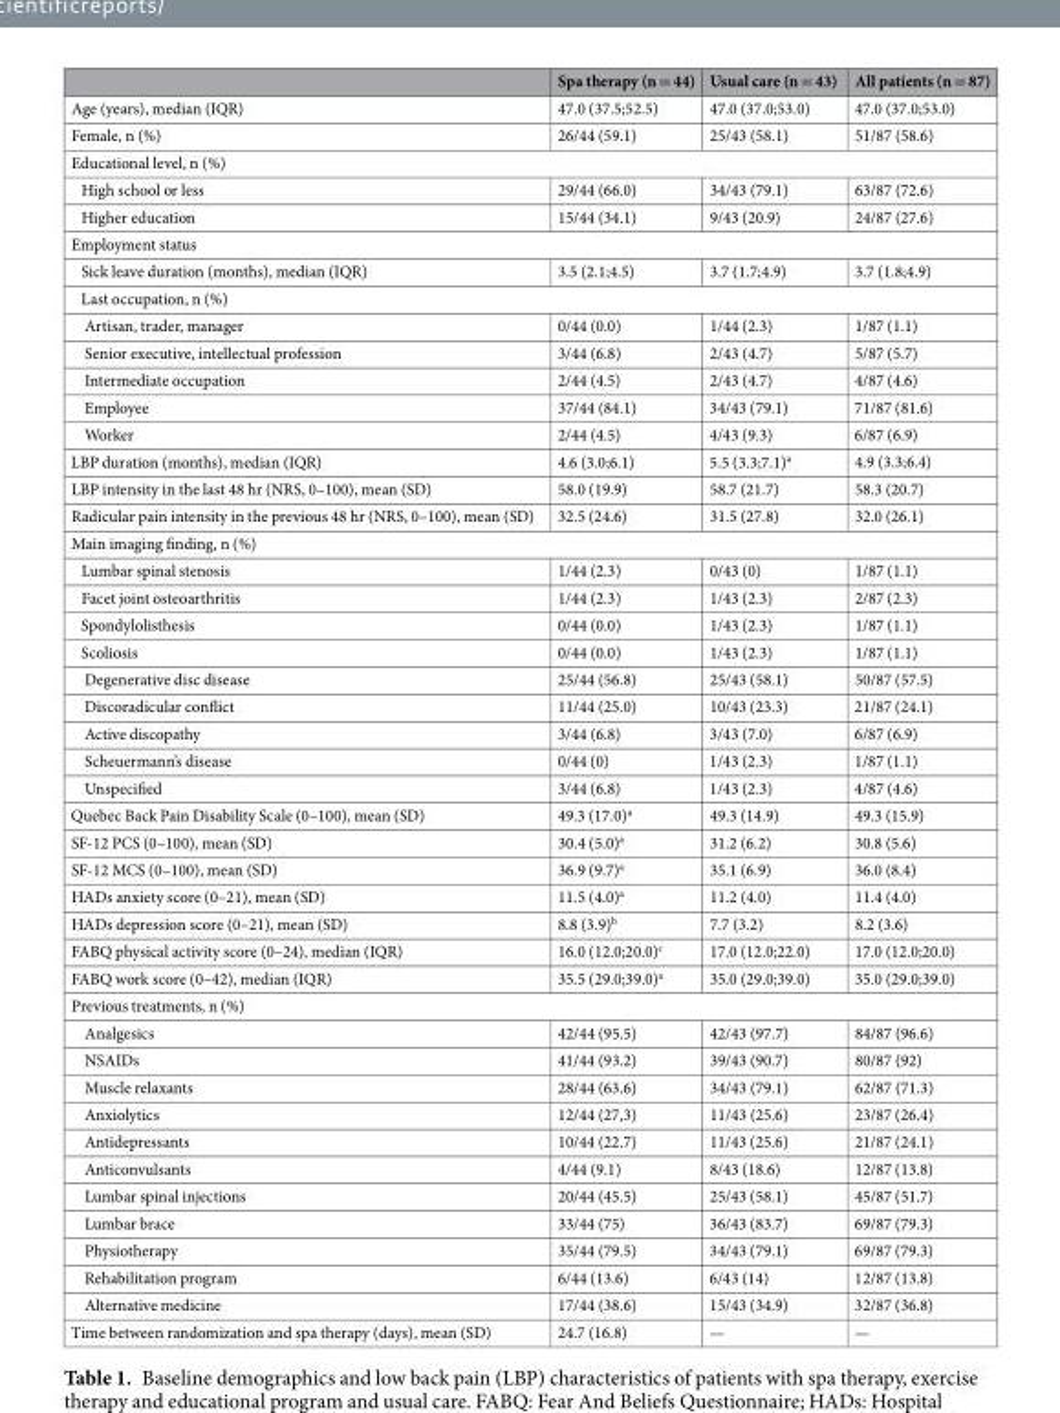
<table><thead><tr><td></td><td>Spa therapy (n = 44)</td><td>Usual care (n = 43)</td><td>All patients (n = 87)</td></tr></thead><tbody><tr><td>Age (years), median (IQR)</td><td>47.0 (37.5;52.5)</td><td>47.0 (37.0;53.0)</td><td>47.0 (37.0;53.0)</td></tr><tr><td>Female, n (%)</td><td>26/44 (59.1)</td><td>25/43 (58.1)</td><td>51/87 (58.6)</td></tr><tr><td colspan="4">Educational level, n (%)</td></tr><tr><td>High school or less</td><td>29/44 (66.0)</td><td>34/43 (79.1)</td><td>63/87 (72.6)</td></tr><tr><td>Higher education</td><td>15/44 (34.1)</td><td>9/43 (20.9)</td><td>24/87 (27.6)</td></tr><tr><td colspan="4">Employment status</td></tr><tr><td>Sick leave duration (months), median (IQR)</td><td>3.5 (2.1;4.5)</td><td>3.7 (1.7;4.9)</td><td>3.7 (1.8;4.9)</td></tr><tr><td colspan="4">Last occupation, n (%)</td></tr><tr><td>Artisan, trader, manager</td><td>0/44 (0.0)</td><td>1/44 (2.3)</td><td>1/87 (1.1)</td></tr><tr><td>Senior executive, intellectual profession</td><td>3/44 (6.8)</td><td>2/43 (4.7)</td><td>5/87 (5.7)</td></tr><tr><td>Intermediate occupation</td><td>2/44 (4.5)</td><td>2/43 (4.7)</td><td>4/87 (4.6)</td></tr><tr><td>Employee</td><td>37/44 (84.1)</td><td>34/43 (79.1)</td><td>71/87 (81.6)</td></tr><tr><td>Worker</td><td>2/44 (4.5)</td><td>4/43 (9.3)</td><td>6/87 (6.9)</td></tr><tr><td>LBP duration (months), median (IQR)</td><td>4.6 (3.0;6.1)</td><td>5.5 (3.3;7.1)<sup>a</sup></td><td>4.9 (3.3;6.4)</td></tr><tr><td>LBP intensity in the last 48 hr (NRS, 0–100), mean (SD)</td><td>58.0 (19.9)</td><td>58.7 (21.7)</td><td>58.3 (20.7)</td></tr><tr><td>Radicular pain intensity in the previous 48 hr (NRS, 0–100), mean (SD)</td><td>32.5 (24.6)</td><td>31.5 (27.8)</td><td>32.0 (26.1)</td></tr><tr><td colspan="4">Main imaging finding, n (%)</td></tr><tr><td>Lumbar spinal stenosis</td><td>1/44 (2.3)</td><td>0/43 (0)</td><td>1/87 (1.1)</td></tr><tr><td>Facet joint osteoarthritis</td><td>1/44 (2.3)</td><td>1/43 (2.3)</td><td>2/87 (2.3)</td></tr><tr><td>Spondylolisthesis</td><td>0/44 (0.0)</td><td>1/43 (2.3)</td><td>1/87 (1.1)</td></tr><tr><td>Scoliosis</td><td>0/44 (0.0)</td><td>1/43 (2.3)</td><td>1/87 (1.1)</td></tr><tr><td>Degenerative disc disease</td><td>25/44 (56.8)</td><td>25/43 (58.1)</td><td>50/87 (57.5)</td></tr><tr><td>Discoradicular conflict</td><td>11/44 (25.0)</td><td>10/43 (23.3)</td><td>21/87 (24.1)</td></tr><tr><td>Active discopathy</td><td>3/44 (6.8)</td><td>3/43 (7.0)</td><td>6/87 (6.9)</td></tr><tr><td>Scheuermann’s disease</td><td>0/44 (0)</td><td>1/43 (2.3)</td><td>1/87 (1.1)</td></tr><tr><td>Unspecified</td><td>3/44 (6.8)</td><td>1/43 (2.3)</td><td>4/87 (4.6)</td></tr><tr><td>Quebec Back Pain Disability Scale (0–100), mean (SD)</td><td>49.3 (17.0)<sup>a</sup></td><td>49.3 (14.9)</td><td>49.3 (15.9)</td></tr><tr><td>SF-12 PCS (0–100), mean (SD)</td><td>30.4 (5.0)<sup>a</sup></td><td>31.2 (6.2)</td><td>30.8 (5.6)</td></tr><tr><td>SF-12 MCS (0–100), mean (SD)</td><td>36.9 (9.7)<sup>a</sup></td><td>35.1 (6.9)</td><td>36.0 (8.4)</td></tr><tr><td>HADs anxiety score (0–21), mean (SD)</td><td>11.5 (4.0)<sup>a</sup></td><td>11.2 (4.0)</td><td>11.4 (4.0)</td></tr><tr><td>HADs depression score (0–21), mean (SD)</td><td>8.8 (3.9)<sup>b</sup></td><td>7.7 (3.2)</td><td>8.2 (3.6)</td></tr><tr><td>FABQ physical activity score (0–24), median (IQR)</td><td>16.0 (12.0;20.0)<sup>c</sup></td><td>17.0 (12.0;22.0)</td><td>17.0 (12.0;20.0)</td></tr><tr><td>FABQ work score (0–42), median (IQR)</td><td>35.5 (29.0;39.0)<sup>a</sup></td><td>35.0 (29.0;39.0)</td><td>35.0 (29.0;39.0)</td></tr><tr><td colspan="4">Previous treatments, n (%)</td></tr><tr><td>Analgesics</td><td>42/44 (95.5)</td><td>42/43 (97.7)</td><td>84/87 (96.6)</td></tr><tr><td>NSAIDs</td><td>41/44 (93.2)</td><td>39/43 (90.7)</td><td>80/87 (92)</td></tr><tr><td>Muscle relaxants</td><td>28/44 (63.6)</td><td>34/43 (79.1)</td><td>62/87 (71.3)</td></tr><tr><td>Anxiolytics</td><td>12/44 (27,3)</td><td>11/43 (25.6)</td><td>23/87 (26.4)</td></tr><tr><td>Antidepressants</td><td>10/44 (22.7)</td><td>11/43 (25.6)</td><td>21/87 (24.1)</td></tr><tr><td>Anticonvulsants</td><td>4/44 (9.1)</td><td>8/43 (18.6)</td><td>12/87 (13.8)</td></tr><tr><td>Lumbar spinal injections</td><td>20/44 (45.5)</td><td>25/43 (58.1)</td><td>45/87 (51.7)</td></tr><tr><td>Lumbar brace</td><td>33/44 (75)</td><td>36/43 (83.7)</td><td>69/87 (79.3)</td></tr><tr><td>Physiotherapy</td><td>35/44 (79.5)</td><td>34/43 (79.1)</td><td>69/87 (79.3)</td></tr><tr><td>Rehabilitation program</td><td>6/44 (13.6)</td><td>6/43 (14)</td><td>12/87 (13.8)</td></tr><tr><td>Alternative medicine</td><td>17/44 (38.6)</td><td>15/43 (34.9)</td><td>32/87 (36.8)</td></tr><tr><td>Time between randomization and spa therapy (days), mean (SD)</td><td>24.7 (16.8)</td><td>—</td><td>—</td></tr></tbody></table>